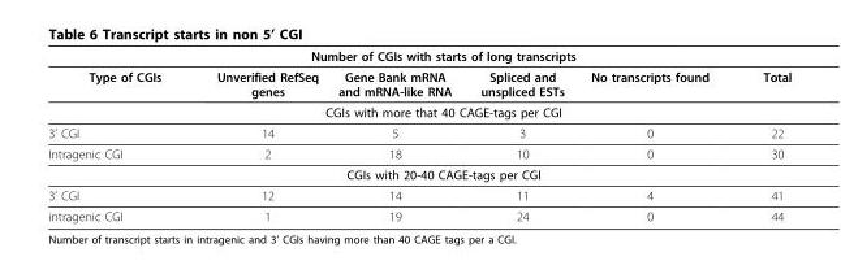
<table><thead><tr><td colspan="6">Number of CGIs with starts of long transcripts</td></tr><tr><td>Type of CGIs</td><td>Unverified RefSeq genes</td><td>Gene Bank mRNA and mRNA-like RNA</td><td>Spliced and unspliced ESTs</td><td>No transcripts found</td><td>Total</td></tr></thead><tbody><tr><td colspan="6">CGIs with more that 40 CAGE-tags per CGI</td></tr><tr><td>3’ CGI</td><td>14</td><td>5</td><td>3</td><td>0</td><td>22</td></tr><tr><td>Intragenic CGI</td><td>2</td><td>18</td><td>10</td><td>0</td><td>30</td></tr><tr><td colspan="6">CGIs with 20-40 CAGE-tags per CGI</td></tr><tr><td>3’ CGI</td><td>12</td><td>14</td><td>11</td><td>4</td><td>41</td></tr><tr><td>intragenic CGI</td><td>1</td><td>19</td><td>24</td><td>0</td><td>44</td></tr></tbody></table>